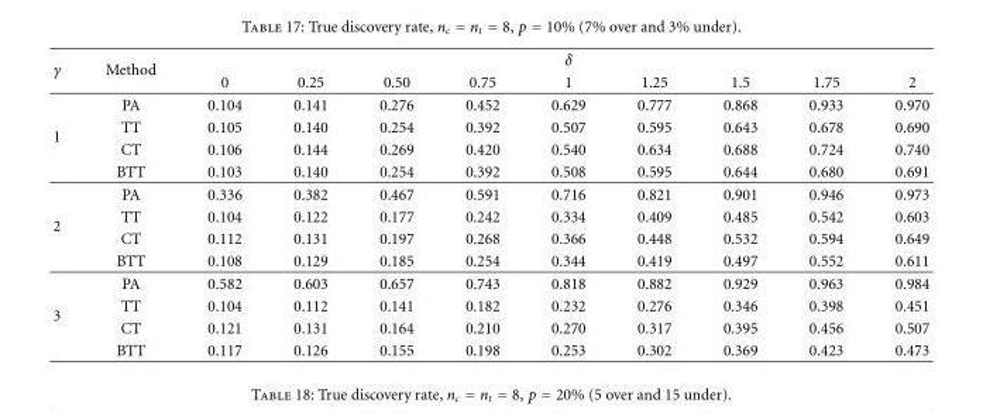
<table><thead><tr><td rowspan="2">γ</td><td rowspan="2">Method</td><td colspan="9">δ</td></tr><tr><td>0</td><td>0.25</td><td>0.50</td><td>0.75</td><td>1</td><td>1.25</td><td>1.5</td><td>1.75</td><td>2</td></tr></thead><tbody><tr><td rowspan="4">1</td><td>PA</td><td>0.104</td><td>0.141</td><td>0.276</td><td>0.452</td><td>0.629</td><td>0.777</td><td>0.868</td><td>0.933</td><td>0.970</td></tr><tr><td>TT</td><td>0.105</td><td>0.140</td><td>0.254</td><td>0.392</td><td>0.507</td><td>0.595</td><td>0.643</td><td>0.678</td><td>0.690</td></tr><tr><td>CT</td><td>0.106</td><td>0.144</td><td>0.269</td><td>0.420</td><td>0.540</td><td>0.634</td><td>0.688</td><td>0.724</td><td>0.740</td></tr><tr><td>BTT</td><td>0.103</td><td>0.140</td><td>0.254</td><td>0.392</td><td>0.508</td><td>0.595</td><td>0.644</td><td>0.680</td><td>0.691</td></tr><tr><td rowspan="4">2</td><td>PA</td><td>0.336</td><td>0.382</td><td>0.467</td><td>0.591</td><td>0.716</td><td>0.821</td><td>0.901</td><td>0.946</td><td>0.973</td></tr><tr><td>TT</td><td>0.104</td><td>0.122</td><td>0.177</td><td>0.242</td><td>0.334</td><td>0.409</td><td>0.485</td><td>0.542</td><td>0.603</td></tr><tr><td>CT</td><td>0.112</td><td>0.131</td><td>0.197</td><td>0.268</td><td>0.366</td><td>0.448</td><td>0.532</td><td>0.594</td><td>0.649</td></tr><tr><td>BTT</td><td>0.108</td><td>0.129</td><td>0.185</td><td>0.254</td><td>0.344</td><td>0.419</td><td>0.497</td><td>0.552</td><td>0.611</td></tr><tr><td rowspan="4">3</td><td>PA</td><td>0.582</td><td>0.603</td><td>0.657</td><td>0.743</td><td>0.818</td><td>0.882</td><td>0.929</td><td>0.963</td><td>0.984</td></tr><tr><td>TT</td><td>0.104</td><td>0.112</td><td>0.141</td><td>0.182</td><td>0.232</td><td>0.276</td><td>0.346</td><td>0.398</td><td>0.451</td></tr><tr><td>CT</td><td>0.121</td><td>0.131</td><td>0.164</td><td>0.210</td><td>0.270</td><td>0.317</td><td>0.395</td><td>0.456</td><td>0.507</td></tr><tr><td>BTT</td><td>0.117</td><td>0.126</td><td>0.155</td><td>0.198</td><td>0.253</td><td>0.302</td><td>0.369</td><td>0.423</td><td>0.473</td></tr></tbody></table>